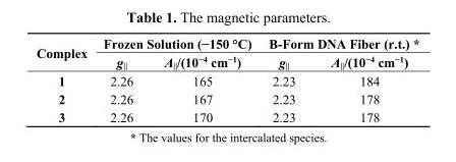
<table><thead><tr><td rowspan="2">Complex</td><td colspan="2">Frozen Solution (−150 °C)</td><td colspan="2">B-Form DNA Fiber (r.t.) *</td></tr><tr><td>g<sub>||</sub></td><td>A<sub>||</sub>/(10<sup>−4</sup> cm<sup>−1</sup>)</td><td>g<sub>||</sub></td><td>A<sub>||</sub>/(10<sup>−4</sup> cm<sup>−1</sup>)</td></tr></thead><tbody><tr><td>1</td><td>2.26</td><td>165</td><td>2.23</td><td>184</td></tr><tr><td>2</td><td>2.26</td><td>167</td><td>2.23</td><td>178</td></tr><tr><td>3</td><td>2.26</td><td>170</td><td>2.23</td><td>178</td></tr></tbody></table>